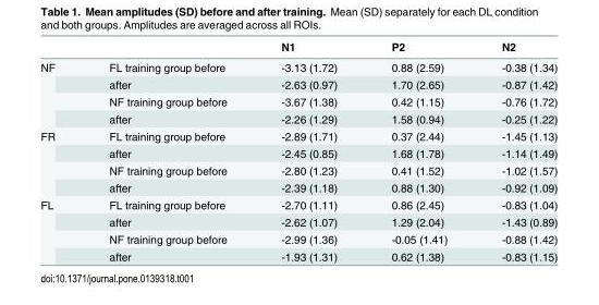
<table><thead><tr><td></td><td></td><td>N1</td><td>P2</td><td>N2</td></tr></thead><tbody><tr><td rowspan="4">NF</td><td>FL training group before</td><td>-3.13 (1.72)</td><td>0.88 (2.59)</td><td>-0.38 (1.34)</td></tr><tr><td>after</td><td>-2.63 (0.97)</td><td>1.70 (2.65)</td><td>-0.87 (1.42)</td></tr><tr><td>NF training group before</td><td>-3.67 (1.38)</td><td>0.42 (1.15)</td><td>-0.76 (1.72)</td></tr><tr><td>after</td><td>-2.26 (1.29)</td><td>1.58 (0.94)</td><td>-0.25 (1.22)</td></tr><tr><td rowspan="4">FR</td><td>FL training group before</td><td>-2.89 (1.71)</td><td>0.37 (2.44)</td><td>-1.45 (1.13)</td></tr><tr><td>after</td><td>-2.45 (0.85)</td><td>1.68 (1.78)</td><td>-1.14 (1.49)</td></tr><tr><td>NF training group before</td><td>-2.80 (1.23)</td><td>0.41 (1.52)</td><td>-1.02 (1.57)</td></tr><tr><td>after</td><td>-2.39 (1.18)</td><td>0.88 (1.30)</td><td>-0.92 (1.09)</td></tr><tr><td rowspan="4">FL</td><td>FL training group before</td><td>-2.70 (1.11)</td><td>0.86 (2.45)</td><td>-0.83 (1.04)</td></tr><tr><td>after</td><td>-2.62 (1.07)</td><td>1.29 (2.04)</td><td>-1.43 (0.89)</td></tr><tr><td>NF training group before</td><td>-2.99 (1.36)</td><td>-0.05 (1.41)</td><td>-0.88 (1.42)</td></tr><tr><td>after</td><td>-1.93 (1.31)</td><td>0.62 (1.38)</td><td>-0.83 (1.15)</td></tr></tbody></table>